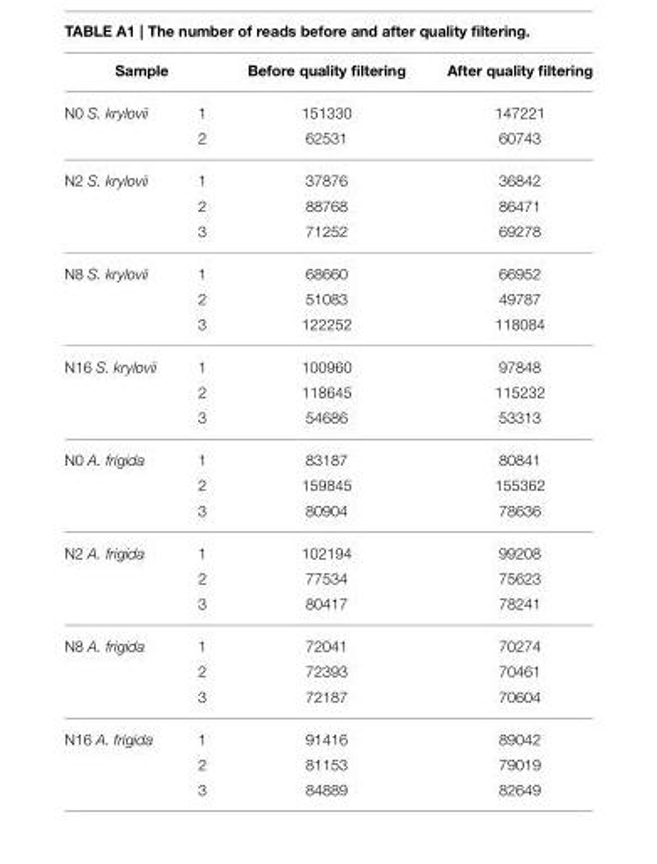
<table><thead><tr><td colspan="2">Sample</td><td rowspan="2">Before quality filtering 151330</td><td rowspan="2">After quality filtering 147221</td></tr><tr><td>N0 S. krylovii</td><td>1</td></tr></thead><tbody><tr><td></td><td>2</td><td>62531</td><td>60743</td></tr><tr><td rowspan="3">N2 S. krylovii</td><td>1</td><td>37876</td><td>36842</td></tr><tr><td>2</td><td>88768</td><td>86471</td></tr><tr><td>3</td><td>71252</td><td>69278</td></tr><tr><td rowspan="3">N8 S. krylovii</td><td>1</td><td>68660</td><td>66952</td></tr><tr><td>2</td><td>51083</td><td>49787</td></tr><tr><td>3</td><td>122252</td><td>118084</td></tr><tr><td rowspan="3">N16 S. krylovii</td><td>1</td><td>100960</td><td>97848</td></tr><tr><td>2</td><td>118645</td><td>115232</td></tr><tr><td>3</td><td>54686</td><td>53313</td></tr><tr><td rowspan="3">N0 A. frigida</td><td>1</td><td>83187</td><td>80841</td></tr><tr><td>2</td><td>159845</td><td>155362</td></tr><tr><td>3</td><td>80904</td><td>78636</td></tr><tr><td rowspan="3">N2 A. frigida</td><td>1</td><td>102194</td><td>99208</td></tr><tr><td>2</td><td>77534</td><td>75623</td></tr><tr><td>3</td><td>80417</td><td>78241</td></tr><tr><td rowspan="3">N8 A. frigida</td><td>1</td><td>72041</td><td>70274</td></tr><tr><td>2</td><td>72393</td><td>70461</td></tr><tr><td>3</td><td>72187</td><td>70604</td></tr><tr><td rowspan="3">N16 A. frigida</td><td>1</td><td>91416</td><td>89042</td></tr><tr><td>2</td><td>81153</td><td>79019</td></tr><tr><td>3</td><td>84889</td><td>82649</td></tr></tbody></table>